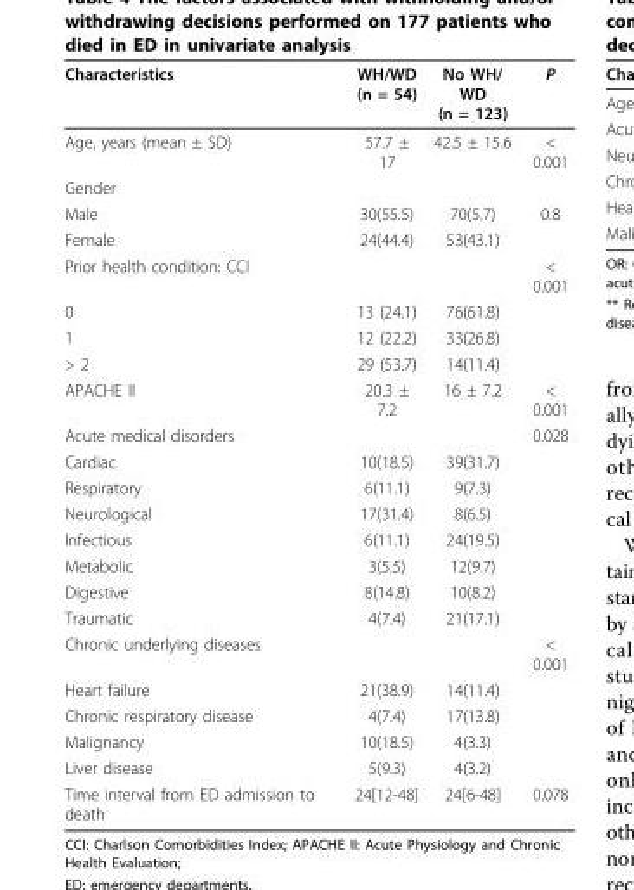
<table><thead><tr><td>Characteristics</td><td>WH/WD (n = 54)</td><td>No WH/ WD (n = 123)</td><td>P</td></tr></thead><tbody><tr><td>Age, years (mean ± SD)</td><td>57.7 ± 17</td><td>42.5 ± 15.6</td><td>&lt; 0.001</td></tr><tr><td colspan="4">Gender</td></tr><tr><td>Male</td><td>30(55.5)</td><td>70(5.7)</td><td>0.8</td></tr><tr><td>Female</td><td>24(44.4)</td><td>53(43.1)</td><td></td></tr><tr><td>Prior health condition: CCI</td><td></td><td></td><td>&lt; 0.001</td></tr><tr><td>0</td><td>13 (24.1)</td><td>76(61.8)</td><td></td></tr><tr><td>1</td><td>12 (22.2)</td><td>33(26.8)</td><td></td></tr><tr><td>&gt; 2</td><td>29 (53.7)</td><td>14(11.4)</td><td></td></tr><tr><td>APACHE II</td><td>20.3 ± 7.2</td><td>16 ± 7.2</td><td>&lt; 0.001</td></tr><tr><td>Acute medical disorders</td><td></td><td></td><td>0.028</td></tr><tr><td>Cardiac</td><td>10(18.5)</td><td>39(31.7)</td><td></td></tr><tr><td>Respiratory</td><td>6(11.1)</td><td>9(7.3)</td><td></td></tr><tr><td>Neurological</td><td>17(31.4)</td><td>8(6.5)</td><td></td></tr><tr><td>Infectious</td><td>6(11.1)</td><td>24(19.5)</td><td></td></tr><tr><td>Metabolic</td><td>3(5.5)</td><td>12(9.7)</td><td></td></tr><tr><td>Digestive</td><td>8(14.8)</td><td>10(8.2)</td><td></td></tr><tr><td>Traumatic</td><td>4(7.4)</td><td>21(17.1)</td><td></td></tr><tr><td>Chronic underlying diseases</td><td></td><td></td><td>&lt; 0.001</td></tr><tr><td>Heart failure</td><td>21(38.9)</td><td>14(11.4)</td><td></td></tr><tr><td>Chronic respiratory disease</td><td>4(7.4)</td><td>17(13.8)</td><td></td></tr><tr><td>Malignancy</td><td>10(18.5)</td><td>4(3.3)</td><td></td></tr><tr><td>Liver disease</td><td>5(9.3)</td><td>4(3.2)</td><td></td></tr><tr><td>Time interval from ED admission to death</td><td>24[12-48]</td><td>24[6-48]</td><td>0.078</td></tr></tbody></table>